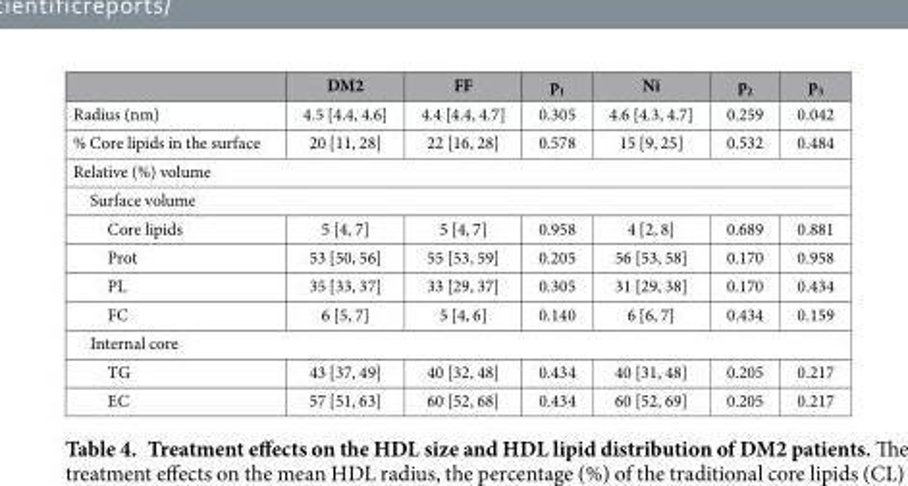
<table><thead><tr><td></td><td>DM2</td><td>FF</td><td>p<sub>1</sub></td><td>Ni</td><td>p<sub>2</sub></td><td>p<sub>3</sub></td></tr></thead><tbody><tr><td>Radius (nm)</td><td>4.5 [4.4, 4.6]</td><td>4.4 [4.4, 4.7]</td><td>0.305</td><td>4.6 [4.3, 4.7]</td><td>0.259</td><td>0.042</td></tr><tr><td>% Core lipids in the surface</td><td>20 [11, 28]</td><td>22 [16, 28]</td><td>0.578</td><td>15 [9, 25]</td><td>0.532</td><td>0.484</td></tr><tr><td colspan="7">Relative (%) volume</td></tr><tr><td colspan="7">Surface volume</td></tr><tr><td>Core lipids</td><td>5 [4, 7]</td><td>5 [4, 7]</td><td>0.958</td><td>4 [2, 8]</td><td>0.689</td><td>0.881</td></tr><tr><td>Prot</td><td>53 [50, 56]</td><td>55 [53, 59]</td><td>0.205</td><td>56 [53, 58]</td><td>0.170</td><td>0.958</td></tr><tr><td>PL</td><td>35 [33, 37]</td><td>33 [29, 37]</td><td>0.305</td><td>31 [29, 38]</td><td>0.170</td><td>0.434</td></tr><tr><td>FC</td><td>6 [5, 7]</td><td>5 [4, 6]</td><td>0.140</td><td>6 [6, 7]</td><td>0.434</td><td>0.159</td></tr><tr><td colspan="7">Internal core</td></tr><tr><td>TG</td><td>43 [37, 49]</td><td>40 [32, 48]</td><td>0.434</td><td>40 [31, 48]</td><td>0.205</td><td>0.217</td></tr><tr><td>EC</td><td>57 [51, 63]</td><td>60 [52, 68]</td><td>0.434</td><td>60 [52, 69]</td><td>0.205</td><td>0.217</td></tr></tbody></table>